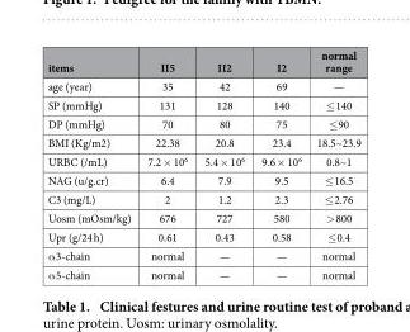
<table><thead><tr><td>items</td><td>II5</td><td>II2</td><td>I2</td><td>normal range</td></tr></thead><tbody><tr><td>age (year)</td><td>35</td><td>42</td><td>69</td><td>—</td></tr><tr><td>SP (mmHg)</td><td>131</td><td>128</td><td>140</td><td>≤ 140</td></tr><tr><td>DP (mmHg)</td><td>70</td><td>80</td><td>75</td><td>≤ 90</td></tr><tr><td>BMI (Kg/m2)</td><td>22.38</td><td>20.8</td><td>23.4</td><td>18.5~23.9</td></tr><tr><td>URBC (/mL)</td><td>7.2 × 10<sup>6</sup></td><td>5.4 × 10<sup>6</sup></td><td>9.6 × 10<sup>6</sup></td><td>0.8~1</td></tr><tr><td>NAG (u/g.cr)</td><td>6.4</td><td>7.9</td><td>9.5</td><td>≤ 16.5</td></tr><tr><td>C3 (mg/L)</td><td>2</td><td>1.2</td><td>2.3</td><td>≤ 2.76</td></tr><tr><td>Uosm (mOsm/kg)</td><td>676</td><td>727</td><td>580</td><td>&gt; 800</td></tr><tr><td>Upr (g/24 h)</td><td>0.61</td><td>0.43</td><td>0.58</td><td>≤ 0.4</td></tr><tr><td>α 3-chain</td><td>normal</td><td>—</td><td>—</td><td>normal</td></tr><tr><td>α 5-chain</td><td>normal</td><td>—</td><td>—</td><td>normal</td></tr></tbody></table>